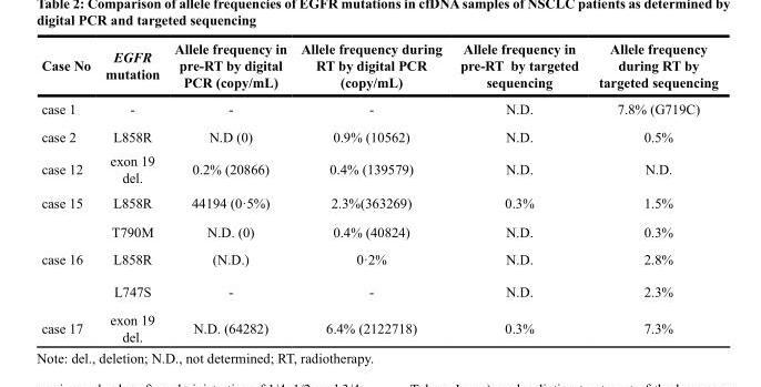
<table><thead><tr><td>Case No</td><td>EGFR mutation</td><td>Allele frequency in pre-RT by digital PCR (copy/mL)</td><td>Allele frequency during RT by digital PCR (copy/mL)</td><td>Allele frequency in pre-RT by targeted sequencing</td><td>Allele frequency during RT by targeted sequencing</td></tr></thead><tbody><tr><td>case 1</td><td>-</td><td>-</td><td>-</td><td>N.D.</td><td>7.8% (G719C)</td></tr><tr><td>case 2</td><td>L858R</td><td>N.D (0)</td><td>0.9% (10562)</td><td>N.D.</td><td>0.5%</td></tr><tr><td>case 12</td><td>exon 19 del.</td><td>0.2% (20866)</td><td>0.4% (139579)</td><td>N.D.</td><td>N.D.</td></tr><tr><td rowspan="2">case 15</td><td>L858R</td><td>44194 (0·5%)</td><td>2.3%(363269)</td><td>0.3%</td><td>1.5%</td></tr><tr><td>T790M</td><td>N.D. (0)</td><td>0.4% (40824)</td><td>N.D.</td><td>0.3%</td></tr><tr><td rowspan="2">case 16</td><td>L858R</td><td>(N.D.)</td><td>0·2%</td><td>N.D.</td><td>2.8%</td></tr><tr><td>L747S</td><td>-</td><td>-</td><td>N.D.</td><td>2.3%</td></tr><tr><td>case 17</td><td>exon 19 del.</td><td>N.D. (64282)</td><td>6.4% (2122718)</td><td>0.3%</td><td>7.3%</td></tr></tbody></table>